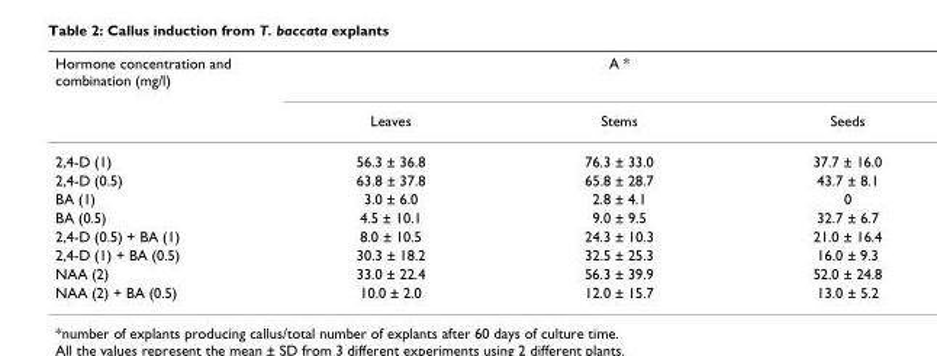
<table><thead><tr><td rowspan="2">Hormone concentration and combination (mg/l)</td><td colspan="3">A *</td></tr><tr><td>Leaves</td><td>Stems</td><td>Seeds</td></tr></thead><tbody><tr><td>2,4-D (1)</td><td>56.3 ± 36.8</td><td>76.3 ± 33.0</td><td>37.7 ± 16.0</td></tr><tr><td>2,4-D (0.5)</td><td>63.8 ± 37.8</td><td>65.8 ± 28.7</td><td>43.7 ± 8.1</td></tr><tr><td>BA (1)</td><td>3.0 ± 6.0</td><td>2.8 ± 4.1</td><td>0</td></tr><tr><td>BA (0.5)</td><td>4.5 ± 10.1</td><td>9.0 ± 9.5</td><td>32.7 ± 6.7</td></tr><tr><td>2,4-D (0.5) + BA (1)</td><td>8.0 ± 10.5</td><td>24.3 ± 10.3</td><td>21.0 ± 16.4</td></tr><tr><td>2,4-D (1) + BA (0.5)</td><td>30.3 ± 18.2</td><td>32.5 ± 25.3</td><td>16.0 ± 9.3</td></tr><tr><td>NAA (2)</td><td>33.0 ± 22.4</td><td>56.3 ± 39.9</td><td>52.0 ± 24.8</td></tr><tr><td>NAA (2) + BA (0.5)</td><td>10.0 ± 2.0</td><td>12.0 ± 15.7</td><td>13.0 ± 5.2</td></tr></tbody></table>